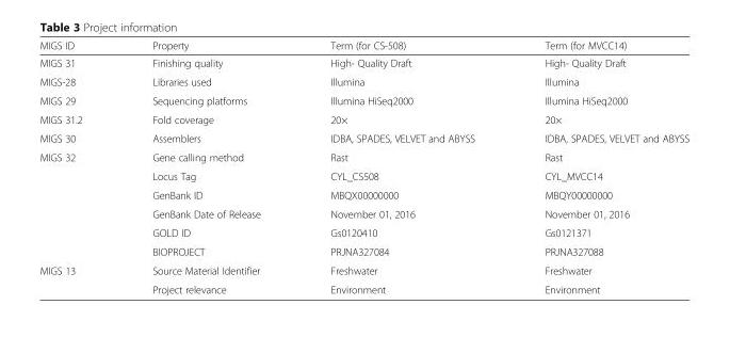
<table><thead><tr><td>MIGS ID</td><td>Property</td><td>Term (for CS-508)</td><td>Term (for MVCC14)</td></tr></thead><tbody><tr><td>MIGS 31</td><td>Finishing quality</td><td>High- Quality Draft</td><td>High- Quality Draft</td></tr><tr><td>MIGS-28</td><td>Libraries used</td><td>Illumina</td><td>Illumina</td></tr><tr><td>MIGS 29</td><td>Sequencing platforms</td><td>Illumina HiSeq2000</td><td>Illumina HiSeq2000</td></tr><tr><td>MIGS 31.2</td><td>Fold coverage</td><td>20×</td><td>20×</td></tr><tr><td>MIGS 30</td><td>Assemblers</td><td>IDBA, SPADES, VELVET and ABYSS</td><td>IDBA, SPADES, VELVET and ABYSS</td></tr><tr><td rowspan="6">MIGS 32</td><td>Gene calling method</td><td>Rast</td><td>Rast</td></tr><tr><td>Locus Tag</td><td>CYL_CS508</td><td>CYL_MVCC14</td></tr><tr><td>GenBank ID</td><td>MBQX00000000</td><td>MBQY00000000</td></tr><tr><td>GenBank Date of Release</td><td>November 01, 2016</td><td>November 01, 2016</td></tr><tr><td>GOLD ID</td><td>Gs0120410</td><td>Gs0121371</td></tr><tr><td>BIOPROJECT</td><td>PRJNA327084</td><td>PRJNA327088</td></tr><tr><td rowspan="2">MIGS 13</td><td>Source Material Identifier</td><td>Freshwater</td><td>Freshwater</td></tr><tr><td>Project relevance</td><td>Environment</td><td>Environment</td></tr></tbody></table>